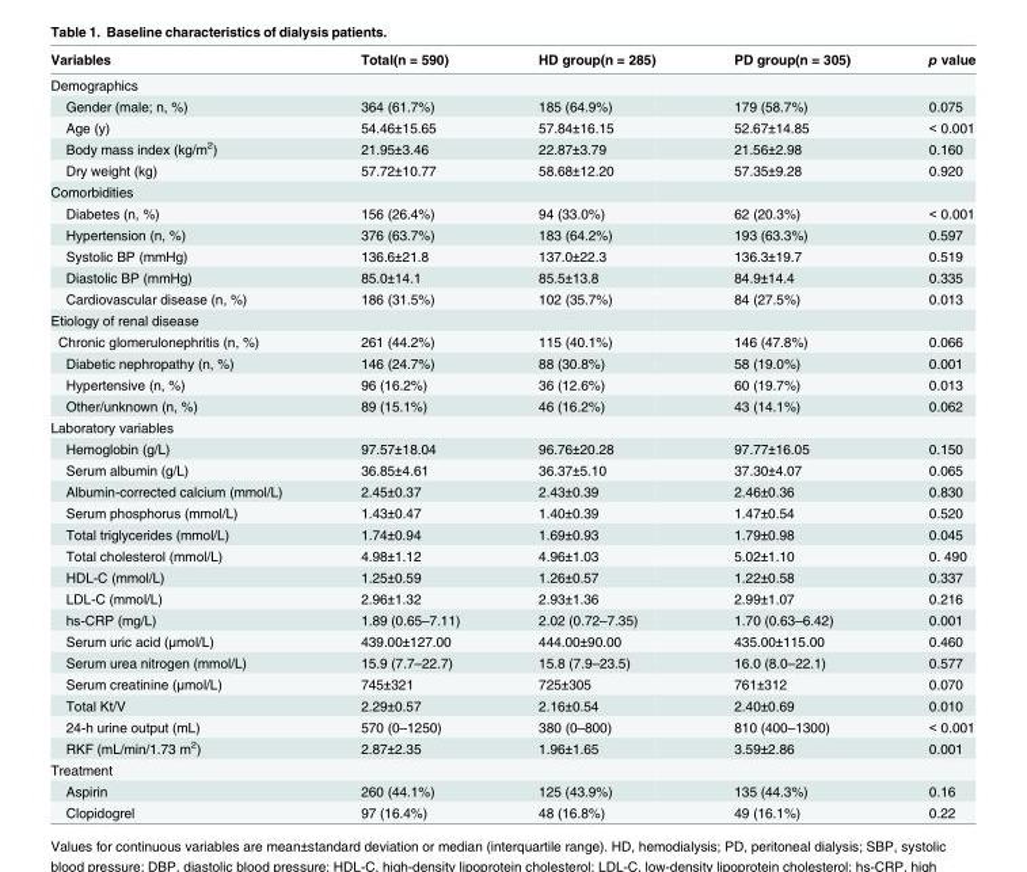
<table><thead><tr><td>Variables</td><td>Total(n = 590)</td><td>HD group(n = 285)</td><td>PD group(n = 305)</td><td>p value</td></tr></thead><tbody><tr><td colspan="5">Demographics</td></tr><tr><td>Gender (male; n, %)</td><td>364 (61.7%)</td><td>185 (64.9%)</td><td>179 (58.7%)</td><td>0.075</td></tr><tr><td>Age (y)</td><td>54.46±15.65</td><td>57.84±16.15</td><td>52.67±14.85</td><td>&lt; 0.001</td></tr><tr><td>Body mass index (kg/m<sup>2</sup>)</td><td>21.95±3.46</td><td>22.87±3.79</td><td>21.56±2.98</td><td>0.160</td></tr><tr><td>Dry weight (kg)</td><td>57.72±10.77</td><td>58.68±12.20</td><td>57.35±9.28</td><td>0.920</td></tr><tr><td colspan="5">Comorbidities</td></tr><tr><td>Diabetes (n, %)</td><td>156 (26.4%)</td><td>94 (33.0%)</td><td>62 (20.3%)</td><td>&lt; 0.001</td></tr><tr><td>Hypertension (n, %)</td><td>376 (63.7%)</td><td>183 (64.2%)</td><td>193 (63.3%)</td><td>0.597</td></tr><tr><td>Systolic BP (mmHg)</td><td>136.6±21.8</td><td>137.0±22.3</td><td>136.3±19.7</td><td>0.519</td></tr><tr><td>Diastolic BP (mmHg)</td><td>85.0±14.1</td><td>85.5±13.8</td><td>84.9±14.4</td><td>0.335</td></tr><tr><td>Cardiovascular disease (n, %)</td><td>186 (31.5%)</td><td>102 (35.7%)</td><td>84 (27.5%)</td><td>0.013</td></tr><tr><td colspan="5">Etiology of renal disease</td></tr><tr><td>Chronic glomerulonephritis (n, %)</td><td>261 (44.2%)</td><td>115 (40.1%)</td><td>146 (47.8%)</td><td>0.066</td></tr><tr><td>Diabetic nephropathy (n, %)</td><td>146 (24.7%)</td><td>88 (30.8%)</td><td>58 (19.0%)</td><td>0.001</td></tr><tr><td>Hypertensive (n, %)</td><td>96 (16.2%)</td><td>36 (12.6%)</td><td>60 (19.7%)</td><td>0.013</td></tr><tr><td>Other/unknown (n, %)</td><td>89 (15.1%)</td><td>46 (16.2%)</td><td>43 (14.1%)</td><td>0.062</td></tr><tr><td colspan="5">Laboratory variables</td></tr><tr><td>Hemoglobin (g/L)</td><td>97.57±18.04</td><td>96.76±20.28</td><td>97.77±16.05</td><td>0.150</td></tr><tr><td>Serum albumin (g/L)</td><td>36.85±4.61</td><td>36.37±5.10</td><td>37.30±4.07</td><td>0.065</td></tr><tr><td>Albumin-corrected calcium (mmol/L)</td><td>2.45±0.37</td><td>2.43±0.39</td><td>2.46±0.36</td><td>0.830</td></tr><tr><td>Serum phosphorus (mmol/L)</td><td>1.43±0.47</td><td>1.40±0.39</td><td>1.47±0.54</td><td>0.520</td></tr><tr><td>Total triglycerides (mmol/L)</td><td>1.74±0.94</td><td>1.69±0.93</td><td>1.79±0.98</td><td>0.045</td></tr><tr><td>Total cholesterol (mmol/L)</td><td>4.98±1.12</td><td>4.96±1.03</td><td>5.02±1.10</td><td>0. 490</td></tr><tr><td>HDL-C (mmol/L)</td><td>1.25±0.59</td><td>1.26±0.57</td><td>1.22±0.58</td><td>0.337</td></tr><tr><td>LDL-C (mmol/L)</td><td>2.96±1.32</td><td>2.93±1.36</td><td>2.99±1.07</td><td>0.216</td></tr><tr><td>hs-CRP (mg/L)</td><td>1.89 (0.65–7.11)</td><td>2.02 (0.72–7.35)</td><td>1.70 (0.63–6.42)</td><td>0.001</td></tr><tr><td>Serum uric acid (μmol/L)</td><td>439.00±127.00</td><td>444.00±90.00</td><td>435.00±115.00</td><td>0.460</td></tr><tr><td>Serum urea nitrogen (mmol/L)</td><td>15.9 (7.7–22.7)</td><td>15.8 (7.9–23.5)</td><td>16.0 (8.0–22.1)</td><td>0.577</td></tr><tr><td>Serum creatinine (μmol/L)</td><td>745±321</td><td>725±305</td><td>761±312</td><td>0.070</td></tr><tr><td>Total Kt/V</td><td>2.29±0.57</td><td>2.16±0.54</td><td>2.40±0.69</td><td>0.010</td></tr><tr><td>24-h urine output (mL)</td><td>570 (0–1250)</td><td>380 (0–800)</td><td>810 (400–1300)</td><td>&lt; 0.001</td></tr><tr><td>RKF (mL/min/1.73 m<sup>2</sup>)</td><td>2.87±2.35</td><td>1.96±1.65</td><td>3.59±2.86</td><td>0.001</td></tr><tr><td colspan="5">Treatment</td></tr><tr><td>Aspirin</td><td>260 (44.1%)</td><td>125 (43.9%)</td><td>135 (44.3%)</td><td>0.16</td></tr><tr><td>Clopidogrel</td><td>97 (16.4%)</td><td>48 (16.8%)</td><td>49 (16.1%)</td><td>0.22</td></tr></tbody></table>